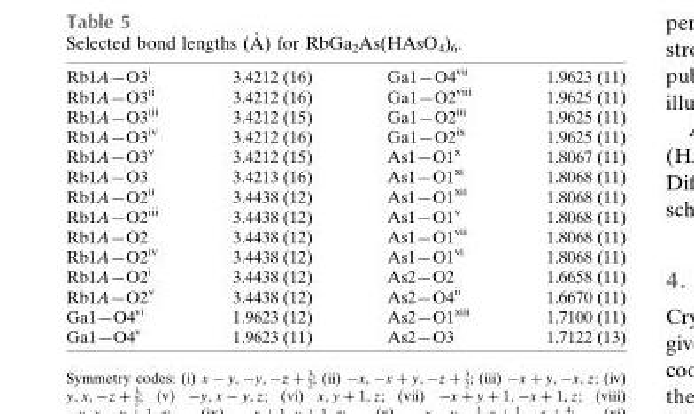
<table><tbody><tr><td>Rb1A—O3<sup>i</sup></td><td>3.4212 (16)</td><td>Ga1—O4<sup>vii</sup></td><td>1.9623 (11)</td></tr><tr><td>Rb1A—O3<sup>ii</sup></td><td>3.4212 (16)</td><td>Ga1—O2<sup>viii</sup></td><td>1.9625 (11)</td></tr><tr><td>Rb1A—O3<sup>iii</sup></td><td>3.4212 (15)</td><td>Ga1—O2<sup>iii</sup></td><td>1.9625 (11)</td></tr><tr><td>Rb1A—O3<sup>iv</sup></td><td>3.4212 (16)</td><td>Ga1—O2<sup>ix</sup></td><td>1.9625 (11)</td></tr><tr><td>Rb1A—O3<sup>v</sup></td><td>3.4212 (15)</td><td>As1—O1<sup>x</sup></td><td>1.8067 (11)</td></tr><tr><td>Rb1A—O3</td><td>3.4213 (16)</td><td>As1—O1<sup>xi</sup></td><td>1.8068 (11)</td></tr><tr><td>Rb1A—O2<sup>ii</sup></td><td>3.4438 (12)</td><td>As1—O1<sup>xii</sup></td><td>1.8068 (11)</td></tr><tr><td>Rb1A—O2<sup>iii</sup></td><td>3.4438 (12)</td><td>As1—O1<sup>v</sup></td><td>1.8068 (11)</td></tr><tr><td>Rb1A—O2</td><td>3.4438 (12)</td><td>As1—O1<sup>vii</sup></td><td>1.8068 (11)</td></tr><tr><td>Rb1A—O2<sup>iv</sup></td><td>3.4438 (12)</td><td>As1—O1<sup>vi</sup></td><td>1.8068 (11)</td></tr><tr><td>Rb1A—O2<sup>i</sup></td><td>3.4438 (12)</td><td>As2—O2</td><td>1.6658 (11)</td></tr><tr><td>Rb1A—O2<sup>v</sup></td><td>3.4438 (12)</td><td>As2—O4<sup>ii</sup></td><td>1.6670 (11)</td></tr><tr><td>Ga1—O4<sup>vi</sup></td><td>1.9623 (12)</td><td>As2—O1<sup>xiii</sup></td><td>1.7100 (11)</td></tr><tr><td>Ga1—O4<sup>v</sup></td><td>1.9623 (11)</td><td>As2—O3</td><td>1.7122 (13)</td></tr></tbody></table>